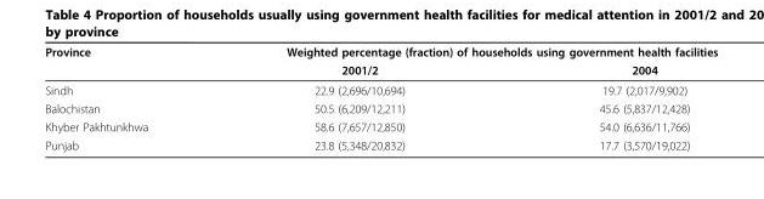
<table><thead><tr><td rowspan="2">Province</td><td colspan="2">Weighted percentage (fraction) of households using government health facilities</td></tr><tr><td>2001/2</td><td>2004</td></tr></thead><tbody><tr><td>Sindh</td><td>22.9 (2,696/10,694)</td><td>19.7 (2,017/9,902)</td></tr><tr><td>Balochistan</td><td>50.5 (6,209/12,211)</td><td>45.6 (5,837/12,428)</td></tr><tr><td>Khyber Pakhtunkhwa</td><td>58.6 (7,657/12,850)</td><td>54.0 (6,636/11,766)</td></tr><tr><td>Punjab</td><td>23.8 (5,348/20,832)</td><td>17.7 (3,570/19,022)</td></tr></tbody></table>